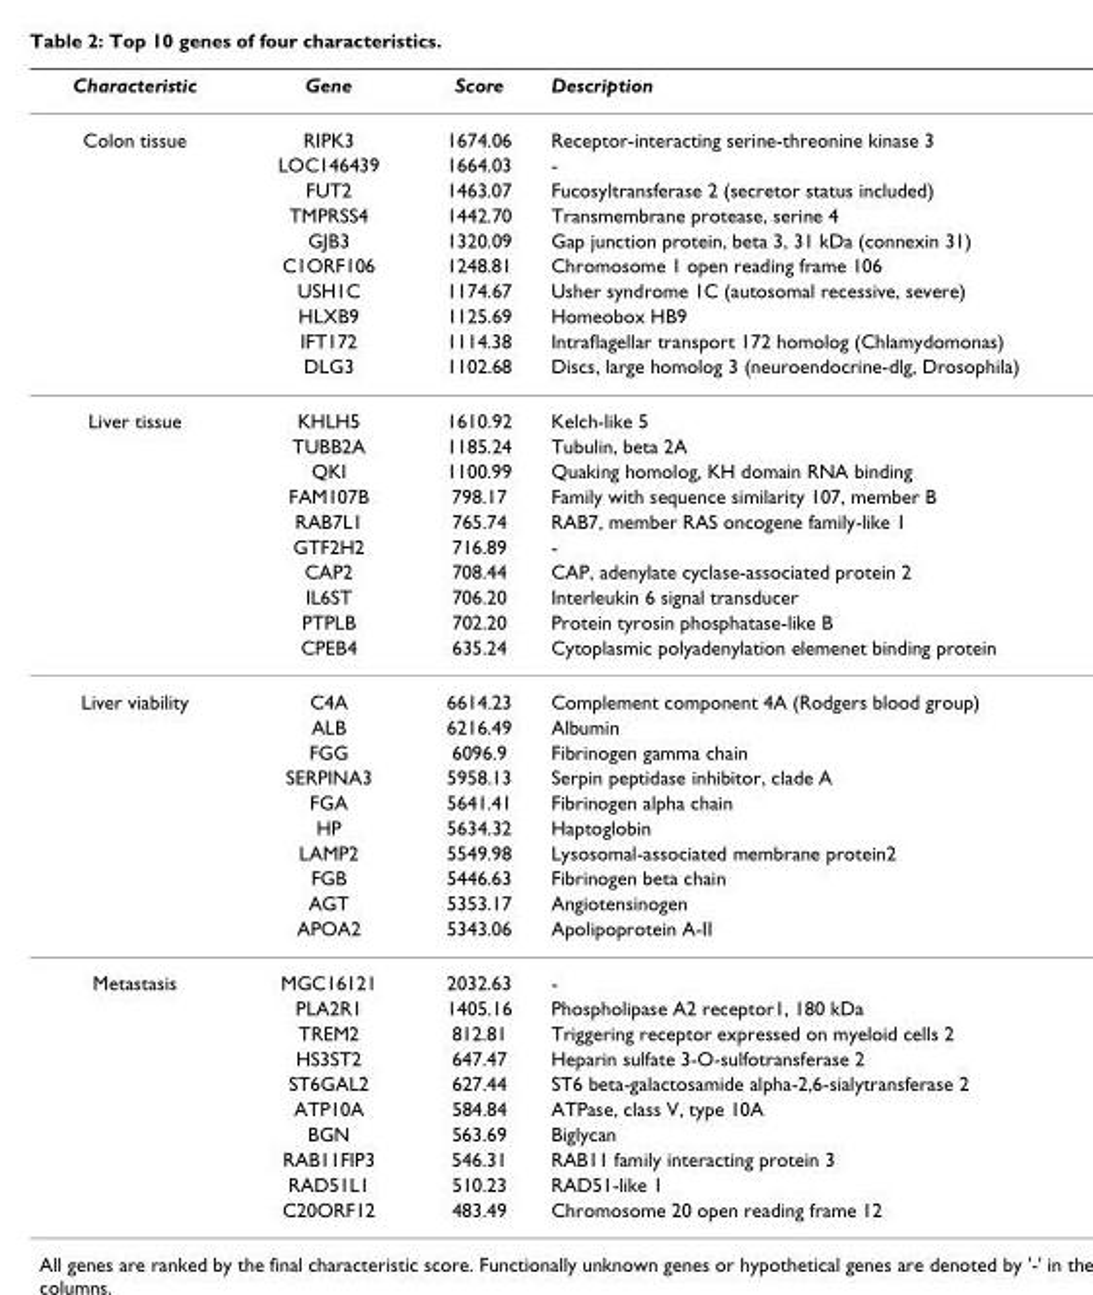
<table><thead><tr><td>Characteristic</td><td>Gene</td><td>Score</td><td>Description</td></tr></thead><tbody><tr><td rowspan="10">Colon tissue</td><td>RIPK3</td><td>1674.06</td><td>Receptor-interacting serine-threonine kinase 3</td></tr><tr><td>LOC146439</td><td>1664.03</td><td>-</td></tr><tr><td>FUT2</td><td>1463.07</td><td>Fucosyltransferase 2 (secretor status included)</td></tr><tr><td>TMPRSS4</td><td>1442.70</td><td>Transmembrane protease, serine 4</td></tr><tr><td>GJB3</td><td>1320.09</td><td>Gap junction protein, beta 3, 31 kDa (connexin 31)</td></tr><tr><td>C1ORF106</td><td>1248.81</td><td>Chromosome 1 open reading frame 106</td></tr><tr><td>USH1C</td><td>1174.67</td><td>Usher syndrome 1C (autosomal recessive, severe)</td></tr><tr><td>HLXB9</td><td>1125.69</td><td>Homeobox HB9</td></tr><tr><td>IFT172</td><td>1114.38</td><td>Intraflagellar transport 172 homolog (Chlamydomonas)</td></tr><tr><td>DLG3</td><td>1102.68</td><td>Discs, large homolog 3 (neuroendocrine-dlg, Drosophila)</td></tr><tr><td rowspan="10">Liver tissue</td><td>KHLH5</td><td>1610.92</td><td>Kelch-like 5</td></tr><tr><td>TUBB2A</td><td>1185.24</td><td>Tubulin, beta 2A</td></tr><tr><td>QKI</td><td>1100.99</td><td>Quaking homolog, KH domain RNA binding</td></tr><tr><td>FAM107B</td><td>798.17</td><td>Family with sequence similarity 107, member B</td></tr><tr><td>RAB7L1</td><td>765.74</td><td>RAB7, member RAS oncogene family-like 1</td></tr><tr><td>GTF2H2</td><td>716.89</td><td>-</td></tr><tr><td>CAP2</td><td>708.44</td><td>CAP, adenylate cyclase-associated protein 2</td></tr><tr><td>IL6ST</td><td>706.20</td><td>Interleukin 6 signal transducer</td></tr><tr><td>PTPLB</td><td>702.20</td><td>Protein tyrosin phosphatase-like B</td></tr><tr><td>CPEB4</td><td>635.24</td><td>Cytoplasmic polyadenylation elemenet binding protein</td></tr><tr><td rowspan="10">Liver viability</td><td>C4A</td><td>6614.23</td><td>Complement component 4A (Rodgers blood group)</td></tr><tr><td>ALB</td><td>6216.49</td><td>Albumin</td></tr><tr><td>FGG</td><td>6096.9</td><td>Fibrinogen gamma chain</td></tr><tr><td>SERPINA3</td><td>5958.13</td><td>Serpin peptidase inhibitor, clade A</td></tr><tr><td>FGA</td><td>5641.41</td><td>Fibrinogen alpha chain</td></tr><tr><td>HP</td><td>5634.32</td><td>Haptoglobin</td></tr><tr><td>LAMP2</td><td>5549.98</td><td>Lysosomal-associated membrane protein2</td></tr><tr><td>FGB</td><td>5446.63</td><td>Fibrinogen beta chain</td></tr><tr><td>AGT</td><td>5353.17</td><td>Angiotensinogen</td></tr><tr><td>APOA2</td><td>5343.06</td><td>Apolipoprotein A-II</td></tr><tr><td rowspan="10">Metastasis</td><td>MGC16121</td><td>2032.63</td><td>-</td></tr><tr><td>PLA2R1</td><td>1405.16</td><td>Phospholipase A2 receptor1, 180 kDa</td></tr><tr><td>TREM2</td><td>812.81</td><td>Triggering receptor expressed on myeloid cells 2</td></tr><tr><td>HS3ST2</td><td>647.47</td><td>Heparin sulfate 3-O-sulfotransferase 2</td></tr><tr><td>ST6GAL2</td><td>627.44</td><td>ST6 beta-galactosamide alpha-2,6-sialytransferase 2</td></tr><tr><td>ATP10A</td><td>584.84</td><td>ATPase, class V, type 10A</td></tr><tr><td>BGN</td><td>563.69</td><td>Biglycan</td></tr><tr><td>RAB11FIP3</td><td>546.31</td><td>RAB11 family interacting protein 3</td></tr><tr><td>RAD51L1</td><td>510.23</td><td>RAD51-like 1</td></tr><tr><td>C20ORF12</td><td>483.49</td><td>Chromosome 20 open reading frame 12</td></tr></tbody></table>